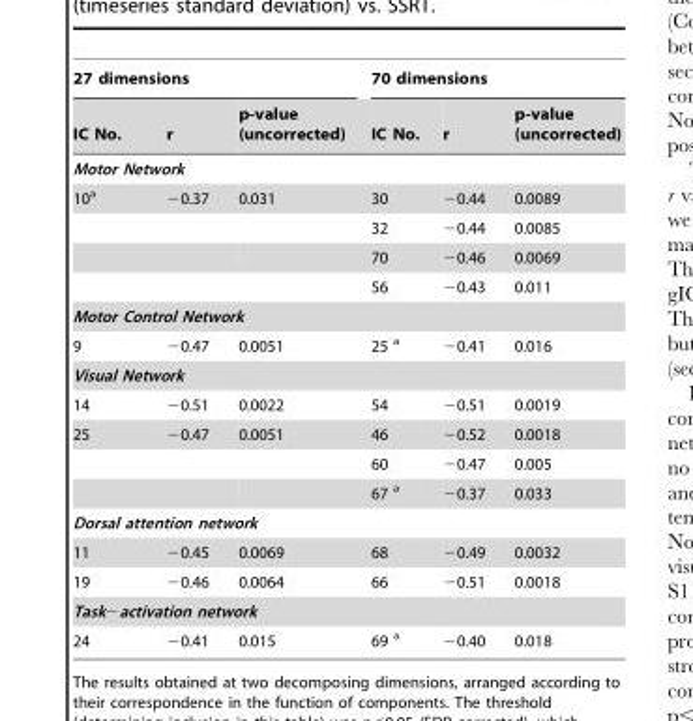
<table><thead><tr><td colspan="3">27 dimensions</td><td colspan="3">70 dimensions</td></tr><tr><td>IC No.</td><td>r</td><td>p-value (uncorrected)</td><td>IC No.</td><td>r</td><td>p-value (uncorrected)</td></tr></thead><tbody><tr><td colspan="6">Motor Network</td></tr><tr><td rowspan="4">10<sup>a</sup></td><td>−0.37</td><td>0.031</td><td>30</td><td>−0.44</td><td>0.0089</td></tr><tr><td></td><td></td><td>32</td><td>−0.44</td><td>0.0085</td></tr><tr><td></td><td></td><td>70</td><td>−0.46</td><td>0.0069</td></tr><tr><td></td><td></td><td>56</td><td>−0.43</td><td>0.011</td></tr><tr><td colspan="6">Motor Control Network</td></tr><tr><td>9</td><td>−0.47</td><td>0.0051</td><td>25 <sup>a</sup></td><td>−0.41</td><td>0.016</td></tr><tr><td colspan="6">Visual Network</td></tr><tr><td>14</td><td>−0.51</td><td>0.0022</td><td>54</td><td>−0.51</td><td>0.0019</td></tr><tr><td rowspan="3">25</td><td>−0.47</td><td>0.0051</td><td>46</td><td>−0.52</td><td>0.0018</td></tr><tr><td></td><td></td><td>60</td><td>−0.47</td><td>0.005</td></tr><tr><td></td><td></td><td>67 <sup>a</sup></td><td>−0.37</td><td>0.033</td></tr><tr><td colspan="6">Dorsal attention network</td></tr><tr><td>11</td><td>−0.45</td><td>0.0069</td><td>68</td><td>−0.49</td><td>0.0032</td></tr><tr><td>19</td><td>−0.46</td><td>0.0064</td><td>66</td><td>−0.51</td><td>0.0018</td></tr><tr><td colspan="6">Task−activation network</td></tr><tr><td>24</td><td>−0.41</td><td>0.015</td><td>69 <sup>a</sup></td><td>−0.40</td><td>0.018</td></tr></tbody></table>